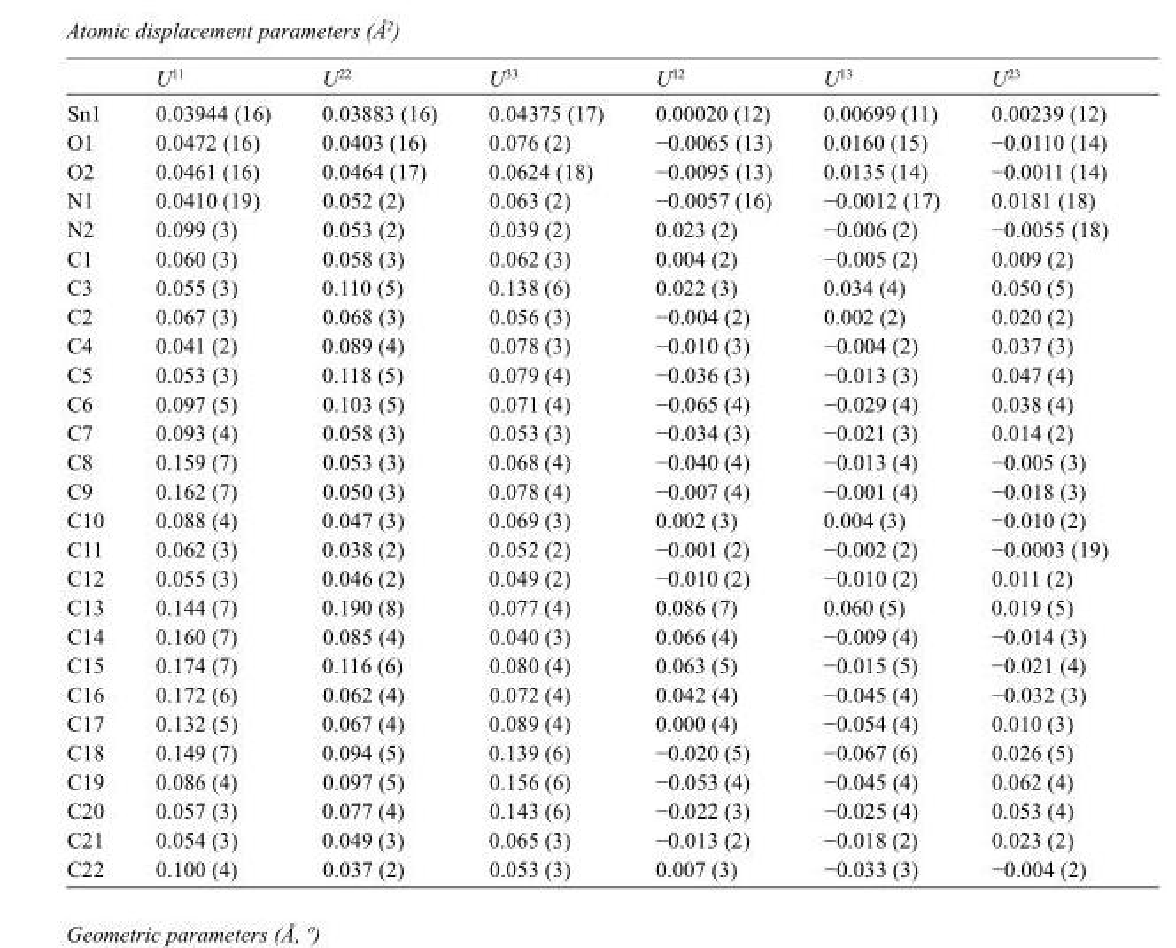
<table><thead><tr><td></td><td>U<sup>11</sup></td><td>U<sup>22</sup></td><td>U<sup>33</sup></td><td>U<sup>12</sup></td><td>U<sup>13</sup></td><td>U<sup>23</sup></td></tr></thead><tbody><tr><td>Sn1</td><td>0.03944 (16)</td><td>0.03883 (16)</td><td>0.04375 (17)</td><td>0.00020 (12)</td><td>0.00699 (11)</td><td>0.00239 (12)</td></tr><tr><td>O1</td><td>0.0472 (16)</td><td>0.0403 (16)</td><td>0.076 (2)</td><td>−0.0065 (13)</td><td>0.0160 (15)</td><td>−0.0110 (14)</td></tr><tr><td>O2</td><td>0.0461 (16)</td><td>0.0464 (17)</td><td>0.0624 (18)</td><td>−0.0095 (13)</td><td>0.0135 (14)</td><td>−0.0011 (14)</td></tr><tr><td>N1</td><td>0.0410 (19)</td><td>0.052 (2)</td><td>0.063 (2)</td><td>−0.0057 (16)</td><td>−0.0012 (17)</td><td>0.0181 (18)</td></tr><tr><td>N2</td><td>0.099 (3)</td><td>0.053 (2)</td><td>0.039 (2)</td><td>0.023 (2)</td><td>−0.006 (2)</td><td>−0.0055 (18)</td></tr><tr><td>C1</td><td>0.060 (3)</td><td>0.058 (3)</td><td>0.062 (3)</td><td>0.004 (2)</td><td>−0.005 (2)</td><td>0.009 (2)</td></tr><tr><td>C3</td><td>0.055 (3)</td><td>0.110 (5)</td><td>0.138 (6)</td><td>0.022 (3)</td><td>0.034 (4)</td><td>0.050 (5)</td></tr><tr><td>C2</td><td>0.067 (3)</td><td>0.068 (3)</td><td>0.056 (3)</td><td>−0.004 (2)</td><td>0.002 (2)</td><td>0.020 (2)</td></tr><tr><td>C4</td><td>0.041 (2)</td><td>0.089 (4)</td><td>0.078 (3)</td><td>−0.010 (3)</td><td>−0.004 (2)</td><td>0.037 (3)</td></tr><tr><td>C5</td><td>0.053 (3)</td><td>0.118 (5)</td><td>0.079 (4)</td><td>−0.036 (3)</td><td>−0.013 (3)</td><td>0.047 (4)</td></tr><tr><td>C6</td><td>0.097 (5)</td><td>0.103 (5)</td><td>0.071 (4)</td><td>−0.065 (4)</td><td>−0.029 (4)</td><td>0.038 (4)</td></tr><tr><td>C7</td><td>0.093 (4)</td><td>0.058 (3)</td><td>0.053 (3)</td><td>−0.034 (3)</td><td>−0.021 (3)</td><td>0.014 (2)</td></tr><tr><td>C8</td><td>0.159 (7)</td><td>0.053 (3)</td><td>0.068 (4)</td><td>−0.040 (4)</td><td>−0.013 (4)</td><td>−0.005 (3)</td></tr><tr><td>C9</td><td>0.162 (7)</td><td>0.050 (3)</td><td>0.078 (4)</td><td>−0.007 (4)</td><td>−0.001 (4)</td><td>−0.018 (3)</td></tr><tr><td>C10</td><td>0.088 (4)</td><td>0.047 (3)</td><td>0.069 (3)</td><td>0.002 (3)</td><td>0.004 (3)</td><td>−0.010 (2)</td></tr><tr><td>C11</td><td>0.062 (3)</td><td>0.038 (2)</td><td>0.052 (2)</td><td>−0.001 (2)</td><td>−0.002 (2)</td><td>−0.0003 (19)</td></tr><tr><td>C12</td><td>0.055 (3)</td><td>0.046 (2)</td><td>0.049 (2)</td><td>−0.010 (2)</td><td>−0.010 (2)</td><td>0.011 (2)</td></tr><tr><td>C13</td><td>0.144 (7)</td><td>0.190 (8)</td><td>0.077 (4)</td><td>0.086 (7)</td><td>0.060 (5)</td><td>0.019 (5)</td></tr><tr><td>C14</td><td>0.160 (7)</td><td>0.085 (4)</td><td>0.040 (3)</td><td>0.066 (4)</td><td>−0.009 (4)</td><td>−0.014 (3)</td></tr><tr><td>C15</td><td>0.174 (7)</td><td>0.116 (6)</td><td>0.080 (4)</td><td>0.063 (5)</td><td>−0.015 (5)</td><td>−0.021 (4)</td></tr><tr><td>C16</td><td>0.172 (6)</td><td>0.062 (4)</td><td>0.072 (4)</td><td>0.042 (4)</td><td>−0.045 (4)</td><td>−0.032 (3)</td></tr><tr><td>C17</td><td>0.132 (5)</td><td>0.067 (4)</td><td>0.089 (4)</td><td>0.000 (4)</td><td>−0.054 (4)</td><td>0.010 (3)</td></tr><tr><td>C18</td><td>0.149 (7)</td><td>0.094 (5)</td><td>0.139 (6)</td><td>−0.020 (5)</td><td>−0.067 (6)</td><td>0.026 (5)</td></tr><tr><td>C19</td><td>0.086 (4)</td><td>0.097 (5)</td><td>0.156 (6)</td><td>−0.053 (4)</td><td>−0.045 (4)</td><td>0.062 (4)</td></tr><tr><td>C20</td><td>0.057 (3)</td><td>0.077 (4)</td><td>0.143 (6)</td><td>−0.022 (3)</td><td>−0.025 (4)</td><td>0.053 (4)</td></tr><tr><td>C21</td><td>0.054 (3)</td><td>0.049 (3)</td><td>0.065 (3)</td><td>−0.013 (2)</td><td>−0.018 (2)</td><td>0.023 (2)</td></tr><tr><td>C22</td><td>0.100 (4)</td><td>0.037 (2)</td><td>0.053 (3)</td><td>0.007 (3)</td><td>−0.033 (3)</td><td>−0.004 (2)</td></tr></tbody></table>